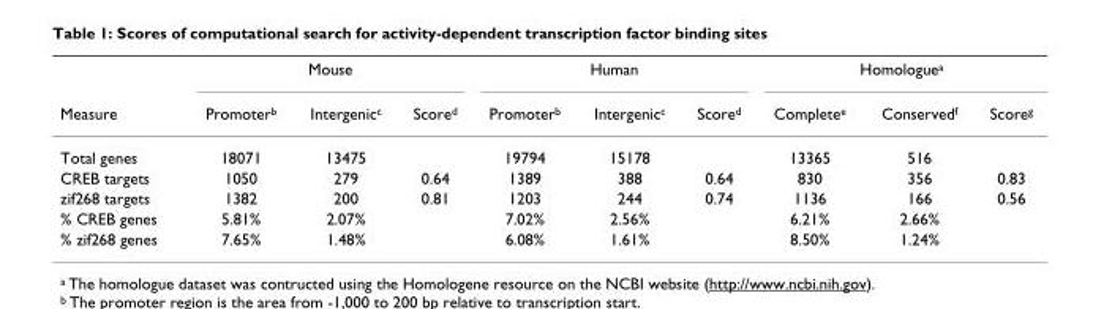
<table><thead><tr><td rowspan="2">Measure</td><td colspan="3">Mouse</td><td colspan="3">Human</td><td colspan="3">Homologuea</td></tr><tr><td>Promoterb</td><td>Intergenicc</td><td>Scored</td><td>Promoterb</td><td>Intergenicc</td><td>Scored</td><td>Completee</td><td>Conservedf</td><td>Scoreg</td></tr></thead><tbody><tr><td>Total genes</td><td>18071</td><td>13475</td><td></td><td>19794</td><td>15178</td><td></td><td>13365</td><td>516</td><td></td></tr><tr><td>CREB targets</td><td>1050</td><td>279</td><td>0.64</td><td>1389</td><td>388</td><td>0.64</td><td>830</td><td>356</td><td>0.83</td></tr><tr><td>zif268 targets</td><td>1382</td><td>200</td><td>0.81</td><td>1203</td><td>244</td><td>0.74</td><td>1136</td><td>166</td><td>0.56</td></tr><tr><td>% CREB genes</td><td>5.81%</td><td>2.07%</td><td></td><td>7.02%</td><td>2.56%</td><td></td><td>6.21%</td><td>2.66%</td><td></td></tr><tr><td>% zif268 genes</td><td>7.65%</td><td>1.48%</td><td></td><td>6.08%</td><td>1.61%</td><td></td><td>8.50%</td><td>1.24%</td><td></td></tr></tbody></table>